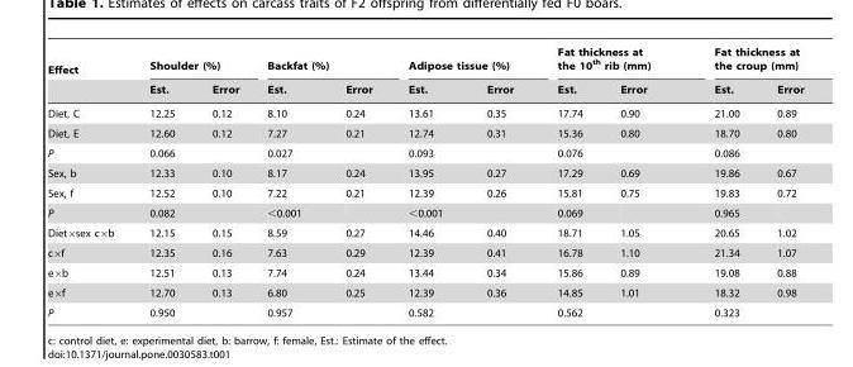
<table><thead><tr><td rowspan="2">Effect</td><td colspan="2">Shoulder (%)</td><td colspan="2">Backfat (%)</td><td colspan="2">Adipose tissue (%)</td><td colspan="2">Fat thickness at the 10<sup>th</sup> rib (mm)</td><td colspan="2">Fat thickness at the croup (mm)</td></tr><tr><td>Est.</td><td>Error</td><td>Est.</td><td>Error</td><td>Est.</td><td>Error</td><td>Est.</td><td>Error</td><td>Est.</td><td>Error</td></tr></thead><tbody><tr><td>Diet, C</td><td>12.25</td><td>0.12</td><td>8.10</td><td>0.24</td><td>13.61</td><td>0.35</td><td>17.74</td><td>0.90</td><td>21.00</td><td>0.89</td></tr><tr><td>Diet, E</td><td>12.60</td><td>0.12</td><td>7.27</td><td>0.21</td><td>12.74</td><td>0.31</td><td>15.36</td><td>0.80</td><td>18.70</td><td>0.80</td></tr><tr><td>P</td><td>0.066</td><td></td><td>0.027</td><td></td><td>0.093</td><td></td><td>0.076</td><td></td><td>0.086</td><td></td></tr><tr><td>Sex, b</td><td>12.33</td><td>0.10</td><td>8.17</td><td>0.24</td><td>13.95</td><td>0.27</td><td>17.29</td><td>0.69</td><td>19.86</td><td>0.67</td></tr><tr><td>Sex, f</td><td>12.52</td><td>0.10</td><td>7.22</td><td>0.21</td><td>12.39</td><td>0.26</td><td>15.81</td><td>0.75</td><td>19.83</td><td>0.72</td></tr><tr><td>P</td><td>0.082</td><td></td><td>&lt;0.001</td><td></td><td>&lt;0.001</td><td></td><td>0.069</td><td></td><td>0.965</td><td></td></tr><tr><td>Diet×sex c×b</td><td>12.15</td><td>0.15</td><td>8.59</td><td>0.27</td><td>14.46</td><td>0.40</td><td>18.71</td><td>1.05</td><td>20.65</td><td>1.02</td></tr><tr><td>c×f</td><td>12.35</td><td>0.16</td><td>7.63</td><td>0.29</td><td>12.39</td><td>0.41</td><td>16.78</td><td>1.10</td><td>21.34</td><td>1.07</td></tr><tr><td>e×b</td><td>12.51</td><td>0.13</td><td>7.74</td><td>0.24</td><td>13.44</td><td>0.34</td><td>15.86</td><td>0.89</td><td>19.08</td><td>0.88</td></tr><tr><td>e×f</td><td>12.70</td><td>0.13</td><td>6.80</td><td>0.25</td><td>12.39</td><td>0.36</td><td>14.85</td><td>1.01</td><td>18.32</td><td>0.98</td></tr><tr><td>P</td><td>0.950</td><td></td><td>0.957</td><td></td><td>0.582</td><td></td><td>0.562</td><td></td><td>0.323</td><td></td></tr></tbody></table>